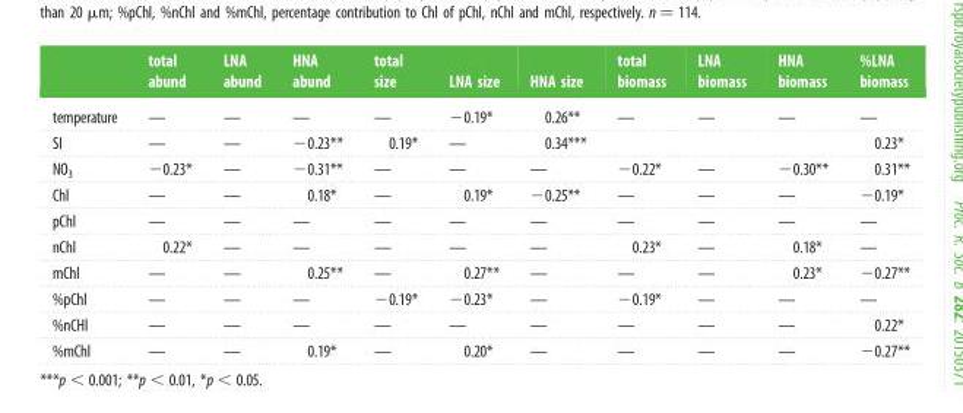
<table><thead><tr><td></td><td>total abund</td><td>LNA abund</td><td>HNA abund</td><td>total size</td><td>LNA size</td><td>HNA size</td><td>total biomass</td><td>LNA biomass</td><td>HNA biomass</td><td>%LNA biomass</td></tr></thead><tbody><tr><td>temperature</td><td>—</td><td>—</td><td>—</td><td>—</td><td>−0.19*</td><td>0.26**</td><td>—</td><td>—</td><td>—</td><td>—</td></tr><tr><td>SI</td><td>—</td><td>—</td><td>−0.23**</td><td>0.19*</td><td>—</td><td>0.34***</td><td></td><td></td><td></td><td>0.23*</td></tr><tr><td>NO<sub>3</sub></td><td>−0.23*</td><td>—</td><td>−0.31**</td><td>—</td><td>—</td><td>—</td><td>−0.22*</td><td>—</td><td>−0.30**</td><td>0.31**</td></tr><tr><td>Chl</td><td>—</td><td>—</td><td>0.18*</td><td>—</td><td>0.19*</td><td>−0.25**</td><td>—</td><td>—</td><td>—</td><td>−0.19*</td></tr><tr><td>pChl</td><td>—</td><td>—</td><td>—</td><td>—</td><td>—</td><td>—</td><td>—</td><td>—</td><td>—</td><td>—</td></tr><tr><td>nChl</td><td>0.22*</td><td>—</td><td>—</td><td>—</td><td>—</td><td>—</td><td>0.23*</td><td>—</td><td>0.18*</td><td>—</td></tr><tr><td>mChl</td><td>—</td><td>—</td><td>0.25**</td><td>—</td><td>0.27**</td><td>—</td><td>—</td><td>—</td><td>0.23*</td><td>−0.27**</td></tr><tr><td>%pChl</td><td>—</td><td>—</td><td>—</td><td>−0.19*</td><td>−0.23*</td><td>—</td><td>−0.19*</td><td>—</td><td>—</td><td>—</td></tr><tr><td>%nCHl</td><td>—</td><td>—</td><td>—</td><td>—</td><td>—</td><td>—</td><td>—</td><td>—</td><td>—</td><td>0.22*</td></tr><tr><td>%mChl</td><td>—</td><td>—</td><td>0.19*</td><td>—</td><td>0.20*</td><td>—</td><td>—</td><td>—</td><td>—</td><td>−0.27**</td></tr></tbody></table>